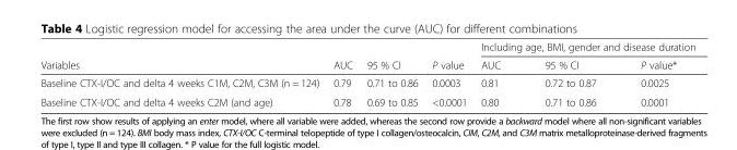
<table><thead><tr><td rowspan="2">Variables</td><td rowspan="2">AUC</td><td rowspan="2">95 % CI</td><td rowspan="2">P value</td><td colspan="3">Including age, BMI, gender and disease duration</td></tr><tr><td>AUC</td><td>95 % CI</td><td>P value*</td></tr></thead><tbody><tr><td>Baseline CTX-I/OC and delta 4 weeks C1M, C2M, C3M (n = 124)</td><td>0.79</td><td>0.71 to 0.86</td><td>0.0003</td><td>0.81</td><td>0.72 to 0.87</td><td>0.0025</td></tr><tr><td>Baseline CTX-I/OC and delta 4 weeks C2M (and age)</td><td>0.78</td><td>0.69 to 0.85</td><td>&lt;0.0001</td><td>0.80</td><td>0.71 to 0.86</td><td>0.0001</td></tr></tbody></table>